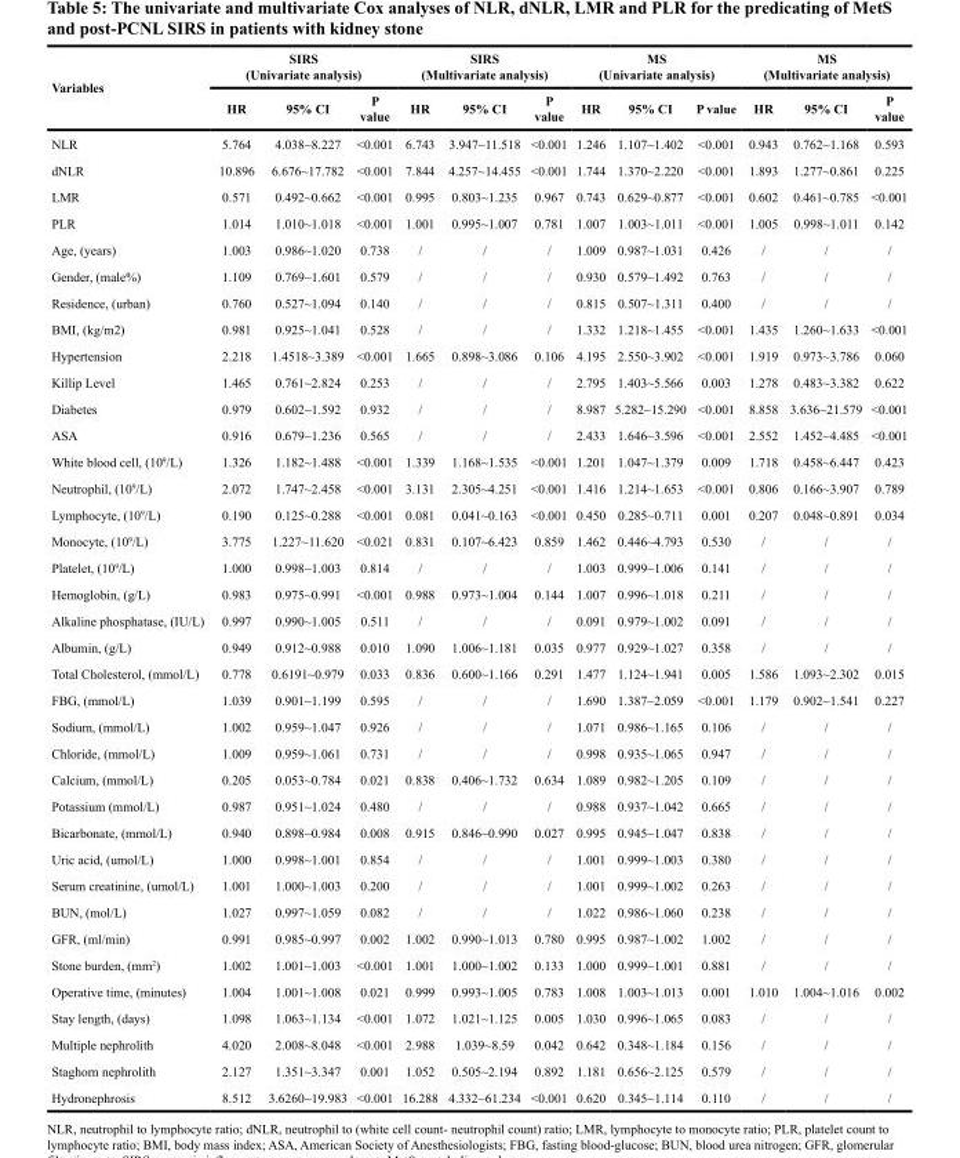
<table><thead><tr><td rowspan="2">Variables</td><td colspan="3">SIRS (Univariate analysis)</td><td colspan="3">SIRS (Multivariate analysis)</td><td colspan="3">MS (Univariate analysis)</td><td colspan="3">MS (Multivariate analysis)</td></tr><tr><td>HR</td><td>95% CI</td><td>P value</td><td>HR</td><td>95% CI</td><td>P value</td><td>HR</td><td>95% CI</td><td>P value</td><td>HR</td><td>95% CI</td><td>P value</td></tr></thead><tbody><tr><td>NLR</td><td>5.764</td><td>4.038~8.227</td><td>&lt;0.001</td><td>6.743</td><td>3.947~11.518</td><td>&lt;0.001</td><td>1.246</td><td>1.107~1.402</td><td>&lt;0.001</td><td>0.943</td><td>0.762~1.168</td><td>0.593</td></tr><tr><td>dNLR</td><td>10.896</td><td>6.676~17.782</td><td>&lt;0.001</td><td>7.844</td><td>4.257~14.455</td><td>&lt;0.001</td><td>1.744</td><td>1.370~2.220</td><td>&lt;0.001</td><td>1.893</td><td>1.277~0.861</td><td>0.225</td></tr><tr><td>LMR</td><td>0.571</td><td>0.492~0.662</td><td>&lt;0.001</td><td>0.995</td><td>0.803~1.235</td><td>0.967</td><td>0.743</td><td>0.629~0.877</td><td>&lt;0.001</td><td>0.602</td><td>0.461~0.785</td><td>&lt;0.001</td></tr><tr><td>PLR</td><td>1.014</td><td>1.010~1.018</td><td>&lt;0.001</td><td>1.001</td><td>0.995~1.007</td><td>0.781</td><td>1.007</td><td>1.003~1.011</td><td>&lt;0.001</td><td>1.005</td><td>0.998~1.011</td><td>0.142</td></tr><tr><td>Age, (years)</td><td>1.003</td><td>0.986~1.020</td><td>0.738</td><td>/</td><td>/</td><td>/</td><td>1.009</td><td>0.987~1.031</td><td>0.426</td><td>/</td><td>/</td><td>/</td></tr><tr><td>Gender, (male%)</td><td>1.109</td><td>0.769~1.601</td><td>0.579</td><td>/</td><td>/</td><td>/</td><td>0.930</td><td>0.579~1.492</td><td>0.763</td><td>/</td><td>/</td><td>/</td></tr><tr><td>Residence, (urban)</td><td>0.760</td><td>0.527~1.094</td><td>0.140</td><td>/</td><td>/</td><td>/</td><td>0.815</td><td>0.507~1.311</td><td>0.400</td><td>/</td><td>/</td><td>/</td></tr><tr><td>BMI, (kg/m2)</td><td>0.981</td><td>0.925~1.041</td><td>0.528</td><td>/</td><td>/</td><td>/</td><td>1.332</td><td>1.218~1.455</td><td>&lt;0.001</td><td>1.435</td><td>1.260~1.633</td><td>&lt;0.001</td></tr><tr><td>Hypertension</td><td>2.218</td><td>1.4518~3.389</td><td>&lt;0.001</td><td>1.665</td><td>0.898~3.086</td><td>0.106</td><td>4.195</td><td>2.550~3.902</td><td>&lt;0.001</td><td>1.919</td><td>0.973~3.786</td><td>0.060</td></tr><tr><td>Killip Level</td><td>1.465</td><td>0.761~2.824</td><td>0.253</td><td>/</td><td>/</td><td>/</td><td>2.795</td><td>1.403~5.566</td><td>0.003</td><td>1.278</td><td>0.483~3.382</td><td>0.622</td></tr><tr><td>Diabetes</td><td>0.979</td><td>0.602~1.592</td><td>0.932</td><td>/</td><td>/</td><td>/</td><td>8.987</td><td>5.282~15.290</td><td>&lt;0.001</td><td>8.858</td><td>3.636~21.579</td><td>&lt;0.001</td></tr><tr><td>ASA</td><td>0.916</td><td>0.679~1.236</td><td>0.565</td><td>/</td><td>/</td><td>/</td><td>2.433</td><td>1.646~3.596</td><td>&lt;0.001</td><td>2.552</td><td>1.452~4.485</td><td>&lt;0.001</td></tr><tr><td>White blood cell, (10<sup>9</sup>/L)</td><td>1.326</td><td>1.182~1.488</td><td>&lt;0.001</td><td>1.339</td><td>1.168~1.535</td><td>&lt;0.001</td><td>1.201</td><td>1.047~1.379</td><td>0.009</td><td>1.718</td><td>0.458~6.447</td><td>0.423</td></tr><tr><td>Neutrophil, (10<sup>9</sup>/L)</td><td>2.072</td><td>1.747~2.458</td><td>&lt;0.001</td><td>3.131</td><td>2.305~4.251</td><td>&lt;0.001</td><td>1.416</td><td>1.214~1.653</td><td>&lt;0.001</td><td>0.806</td><td>0.166~3.907</td><td>0.789</td></tr><tr><td>Lymphocyte, (10<sup>9</sup>/L)</td><td>0.190</td><td>0.125~0.288</td><td>&lt;0.001</td><td>0.081</td><td>0.041~0.163</td><td>&lt;0.001</td><td>0.450</td><td>0.285~0.711</td><td>0.001</td><td>0.207</td><td>0.048~0.891</td><td>0.034</td></tr><tr><td>Monocyte, (10<sup>9</sup>/L)</td><td>3.775</td><td>1.227~11.620</td><td>&lt;0.021</td><td>0.831</td><td>0.107~6.423</td><td>0.859</td><td>1.462</td><td>0.446~4.793</td><td>0.530</td><td>/</td><td>/</td><td>/</td></tr><tr><td>Platelet, (10<sup>9</sup>/L)</td><td>1.000</td><td>0.998~1.003</td><td>0.814</td><td>/</td><td>/</td><td>/</td><td>1.003</td><td>0.999~1.006</td><td>0.141</td><td>/</td><td>/</td><td>/</td></tr><tr><td>Hemoglobin, (g/L)</td><td>0.983</td><td>0.975~0.991</td><td>&lt;0.001</td><td>0.988</td><td>0.973~1.004</td><td>0.144</td><td>1.007</td><td>0.996~1.018</td><td>0.211</td><td>/</td><td>/</td><td>/</td></tr><tr><td>Alkaline phosphatase, (IU/L)</td><td>0.997</td><td>0.990~1.005</td><td>0.511</td><td>/</td><td>/</td><td>/</td><td>0.091</td><td>0.979~1.002</td><td>0.091</td><td>/</td><td>/</td><td>/</td></tr><tr><td>Albumin, (g/L)</td><td>0.949</td><td>0.912~0.988</td><td>0.010</td><td>1.090</td><td>1.006~1.181</td><td>0.035</td><td>0.977</td><td>0.929~1.027</td><td>0.358</td><td>/</td><td>/</td><td>/</td></tr><tr><td>Total Cholesterol, (mmol/L)</td><td>0.778</td><td>0.6191~0.979</td><td>0.033</td><td>0.836</td><td>0.600~1.166</td><td>0.291</td><td>1.477</td><td>1.124~1.941</td><td>0.005</td><td>1.586</td><td>1.093~2.302</td><td>0.015</td></tr><tr><td>FBG, (mmol/L)</td><td>1.039</td><td>0.901~1.199</td><td>0.595</td><td>/</td><td>/</td><td>/</td><td>1.690</td><td>1.387~2.059</td><td>&lt;0.001</td><td>1.179</td><td>0.902~1.541</td><td>0.227</td></tr><tr><td>Sodium, (mmol/L)</td><td>1.002</td><td>0.959~1.047</td><td>0.926</td><td>/</td><td>/</td><td>/</td><td>1.071</td><td>0.986~1.165</td><td>0.106</td><td>/</td><td>/</td><td>/</td></tr><tr><td>Chloride, (mmol/L)</td><td>1.009</td><td>0.959~1.061</td><td>0.731</td><td>/</td><td>/</td><td>/</td><td>0.998</td><td>0.935~1.065</td><td>0.947</td><td>/</td><td>/</td><td>/</td></tr><tr><td>Calcium, (mmol/L)</td><td>0.205</td><td>0.053~0.784</td><td>0.021</td><td>0.838</td><td>0.406~1.732</td><td>0.634</td><td>1.089</td><td>0.982~1.205</td><td>0.109</td><td>/</td><td>/</td><td>/</td></tr><tr><td>Potassium (mmol/L)</td><td>0.987</td><td>0.951~1.024</td><td>0.480</td><td>/</td><td>/</td><td>/</td><td>0.988</td><td>0.937~1.042</td><td>0.665</td><td>/</td><td>/</td><td>/</td></tr><tr><td>Bicarbonate, (mmol/L)</td><td>0.940</td><td>0.898~0.984</td><td>0.008</td><td>0.915</td><td>0.846~0.990</td><td>0.027</td><td>0.995</td><td>0.945~1.047</td><td>0.838</td><td>/</td><td>/</td><td>/</td></tr><tr><td>Uric acid, (umol/L)</td><td>1.000</td><td>0.998~1.001</td><td>0.854</td><td>/</td><td>/</td><td>/</td><td>1.001</td><td>0.999~1.003</td><td>0.380</td><td>/</td><td>/</td><td>/</td></tr><tr><td>Serum creatinine, (umol/L)</td><td>1.001</td><td>1.000~1.003</td><td>0.200</td><td>/</td><td>/</td><td>/</td><td>1.001</td><td>0.999~1.002</td><td>0.263</td><td>/</td><td>/</td><td>/</td></tr><tr><td>BUN, (mol/L)</td><td>1.027</td><td>0.997~1.059</td><td>0.082</td><td>/</td><td>/</td><td>/</td><td>1.022</td><td>0.986~1.060</td><td>0.238</td><td>/</td><td>/</td><td>/</td></tr><tr><td>GFR, (ml/min)</td><td>0.991</td><td>0.985~0.997</td><td>0.002</td><td>1.002</td><td>0.990~1.013</td><td>0.780</td><td>0.995</td><td>0.987~1.002</td><td>1.002</td><td>/</td><td>/</td><td>/</td></tr><tr><td>Stone burden, (mm<sup>2</sup>)</td><td>1.002</td><td>1.001~1.003</td><td>&lt;0.001</td><td>1.001</td><td>1.000~1.002</td><td>0.133</td><td>1.000</td><td>0.999~1.001</td><td>0.881</td><td>/</td><td>/</td><td>/</td></tr><tr><td>Operative time, (minutes)</td><td>1.004</td><td>1.001~1.008</td><td>0.021</td><td>0.999</td><td>0.993~1.005</td><td>0.783</td><td>1.008</td><td>1.003~1.013</td><td>0.001</td><td>1.010</td><td>1.004~1.016</td><td>0.002</td></tr><tr><td>Stay length, (days)</td><td>1.098</td><td>1.063~1.134</td><td>&lt;0.001</td><td>1.072</td><td>1.021~1.125</td><td>0.005</td><td>1.030</td><td>0.996~1.065</td><td>0.083</td><td>/</td><td>/</td><td>/</td></tr><tr><td>Multiple nephrolith</td><td>4.020</td><td>2.008~8.048</td><td>&lt;0.001</td><td>2.988</td><td>1.039~8.59</td><td>0.042</td><td>0.642</td><td>0.348~1.184</td><td>0.156</td><td>/</td><td>/</td><td>/</td></tr><tr><td>Staghorn nephrolith</td><td>2.127</td><td>1.351~3.347</td><td>0.001</td><td>1.052</td><td>0.505~2.194</td><td>0.892</td><td>1.181</td><td>0.656~2.125</td><td>0.579</td><td>/</td><td>/</td><td>/</td></tr><tr><td>Hydronephrosis</td><td>8.512</td><td>3.6260~19.983</td><td>&lt;0.001</td><td>16.288</td><td>4.332~61.234</td><td>&lt;0.001</td><td>0.620</td><td>0.345~1.114</td><td>0.110</td><td>/</td><td>/</td><td>/</td></tr></tbody></table>